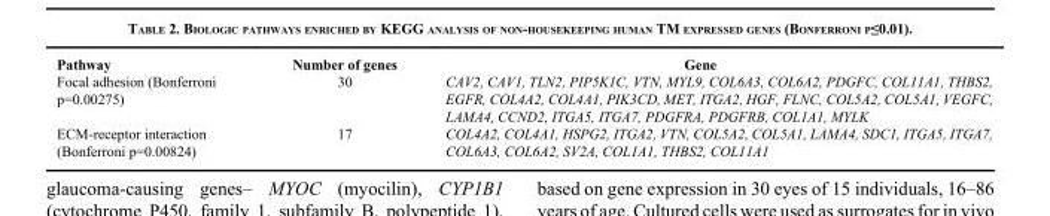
<table><thead><tr><td>Pathway</td><td>Number of genes</td><td>Gene</td></tr></thead><tbody><tr><td>Focal adhesion (Bonferroni p=0.00275)</td><td>30</td><td>CAV2, CAV1, TLN2, PIP5K1C, VTN, MYL9, COL6A3, COL6A2, PDGFC, COL11A1, THBS2, EGFR, COL4A2, COL4A1, PIK3CD, MET, ITGA2, HGF, FLNC, COL5A2, COL5A1, VEGFC, LAMA4, CCND2, ITGA5, ITGA7, PDGFRA, PDGFRB, COL1A1, MYLK</td></tr><tr><td>ECM-receptor interaction (Bonferroni p=0.00824)</td><td>17</td><td>COL4A2, COL4A1, HSPG2, ITGA2, VTN, COL5A2, COL5A1, LAMA4, SDC1, ITGA5, ITGA7, COL6A3, COL6A2, SV2A, COL1A1, THBS2, COL11A1</td></tr></tbody></table>